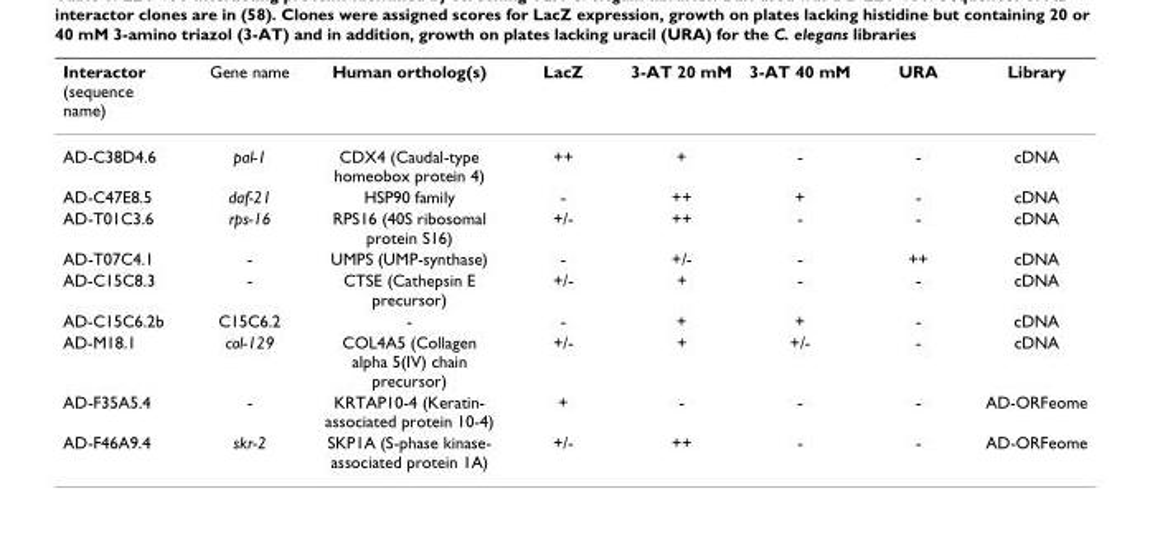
<table><thead><tr><td>Interactor (sequence name)</td><td>Gene name</td><td>Human ortholog(s)</td><td>LacZ</td><td>3-AT 20 mM</td><td>3-AT 40 mM</td><td>URA</td><td>Library</td></tr></thead><tbody><tr><td>AD-C38D4.6</td><td>pal-1</td><td>CDX4 (Caudal-type homeobox protein 4)</td><td>++</td><td>+</td><td>-</td><td>-</td><td>cDNA</td></tr><tr><td>AD-C47E8.5</td><td>daf-21</td><td>HSP90 family</td><td>-</td><td>++</td><td>+</td><td>-</td><td>cDNA</td></tr><tr><td>AD-T01C3.6</td><td>rps-16</td><td>RPS16 (40S ribosomal protein S16)</td><td>+/-</td><td>++</td><td>-</td><td>-</td><td>cDNA</td></tr><tr><td>AD-T07C4.1</td><td>-</td><td>UMPS (UMP-synthase)</td><td>-</td><td>+/-</td><td>-</td><td>++</td><td>cDNA</td></tr><tr><td>AD-C15C8.3</td><td>-</td><td>CTSE (Cathepsin E precursor)</td><td>+/-</td><td>+</td><td>-</td><td>-</td><td>cDNA</td></tr><tr><td>AD-C15C6.2b</td><td>C15C6.2</td><td>-</td><td>-</td><td>+</td><td>+</td><td>-</td><td>cDNA</td></tr><tr><td>AD-M18.1</td><td>col-129</td><td>COL4A5 (Collagen alpha 5(IV) chain precursor)</td><td>+/-</td><td>+</td><td>+/-</td><td>-</td><td>cDNA</td></tr><tr><td>AD-F35A5.4</td><td>-</td><td>KRTAP10-4 (Keratin- associated protein 10-4)</td><td>+</td><td>-</td><td>-</td><td>-</td><td>AD-ORFeome</td></tr><tr><td>AD-F46A9.4</td><td>skr-2</td><td>SKP1A (S-phase kinase- associated protein 1A)</td><td>+/-</td><td>++</td><td>-</td><td>-</td><td>AD-ORFeome</td></tr></tbody></table>